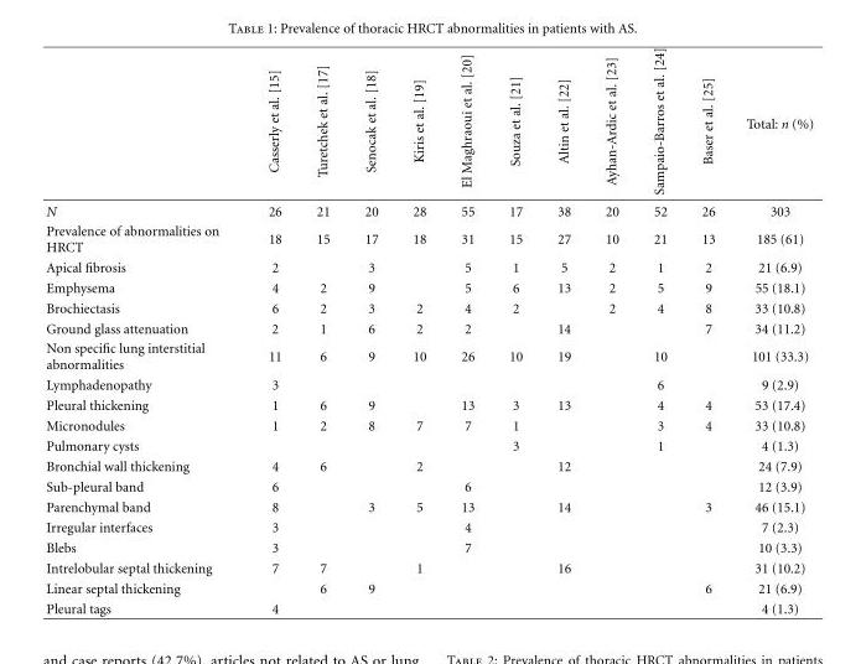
<table><thead><tr><td></td><td>Casserly et al. [15]</td><td>Turetchek et al. [17]</td><td>Senocak et al. [18]</td><td>Kiris et al. [19]</td><td>El Maghraoui et al. [20]</td><td>Souza et al. [21]</td><td>Altin et al. [22]</td><td>Ayhan-Ardic et al. [23]</td><td>Sampaio-Barros et al. [24]</td><td>Baser et al. [25]</td><td>Total: n (%)</td></tr></thead><tbody><tr><td>N</td><td>26</td><td>21</td><td>20</td><td>28</td><td>55</td><td>17</td><td>38</td><td>20</td><td>52</td><td>26</td><td>303</td></tr><tr><td>Prevalence of abnormalities on HRCT</td><td>18</td><td>15</td><td>17</td><td>18</td><td>31</td><td>15</td><td>27</td><td>10</td><td>21</td><td>13</td><td>185 (61)</td></tr><tr><td>Apical fibrosis</td><td>2</td><td></td><td>3</td><td></td><td>5</td><td>1</td><td>5</td><td>2</td><td>1</td><td>2</td><td>21 (6.9)</td></tr><tr><td>Emphysema</td><td>4</td><td>2</td><td>9</td><td></td><td>5</td><td>6</td><td>13</td><td>2</td><td>5</td><td>9</td><td>55 (18.1)</td></tr><tr><td>Brochiectasis</td><td>6</td><td>2</td><td>3</td><td>2</td><td>4</td><td>2</td><td></td><td>2</td><td>4</td><td>8</td><td>33 (10.8)</td></tr><tr><td>Ground glass attenuation</td><td>2</td><td>1</td><td>6</td><td>2</td><td>2</td><td></td><td>14</td><td></td><td></td><td>7</td><td>34 (11.2)</td></tr><tr><td>Non specific lung interstitial abnormalities</td><td>11</td><td>6</td><td>9</td><td>10</td><td>26</td><td>10</td><td>19</td><td></td><td>10</td><td></td><td>101 (33.3)</td></tr><tr><td>Lymphadenopathy</td><td>3</td><td></td><td></td><td></td><td></td><td></td><td></td><td></td><td>6</td><td></td><td>9 (2.9)</td></tr><tr><td>Pleural thickening</td><td>1</td><td>6</td><td>9</td><td></td><td>13</td><td>3</td><td>13</td><td></td><td>4</td><td>4</td><td>53 (17.4)</td></tr><tr><td>Micronodules</td><td>1</td><td>2</td><td>8</td><td>7</td><td>7</td><td>1</td><td></td><td></td><td>3</td><td>4</td><td>33 (10.8)</td></tr><tr><td>Pulmonary cysts</td><td></td><td></td><td></td><td></td><td></td><td>3</td><td></td><td></td><td>1</td><td></td><td>4 (1.3)</td></tr><tr><td>Bronchial wall thickening</td><td>4</td><td>6</td><td></td><td>2</td><td></td><td></td><td>12</td><td></td><td></td><td></td><td>24 (7.9)</td></tr><tr><td>Sub-pleural band</td><td>6</td><td></td><td></td><td></td><td>6</td><td></td><td></td><td></td><td></td><td></td><td>12 (3.9)</td></tr><tr><td>Parenchymal band</td><td>8</td><td></td><td>3</td><td>5</td><td>13</td><td></td><td>14</td><td></td><td></td><td>3</td><td>46 (15.1)</td></tr><tr><td>Irregular interfaces</td><td>3</td><td></td><td></td><td></td><td>4</td><td></td><td></td><td></td><td></td><td></td><td>7 (2.3)</td></tr><tr><td>Blebs</td><td>3</td><td></td><td></td><td></td><td>7</td><td></td><td></td><td></td><td></td><td></td><td>10 (3.3)</td></tr><tr><td>Intrelobular septal thickening</td><td>7</td><td>7</td><td></td><td>1</td><td></td><td></td><td>16</td><td></td><td></td><td></td><td>31 (10.2)</td></tr><tr><td>Linear septal thickening</td><td></td><td>6</td><td>9</td><td></td><td></td><td></td><td></td><td></td><td></td><td>6</td><td>21 (6.9)</td></tr><tr><td>Pleural tags</td><td>4</td><td></td><td></td><td></td><td></td><td></td><td></td><td></td><td></td><td></td><td>4 (1.3)</td></tr></tbody></table>